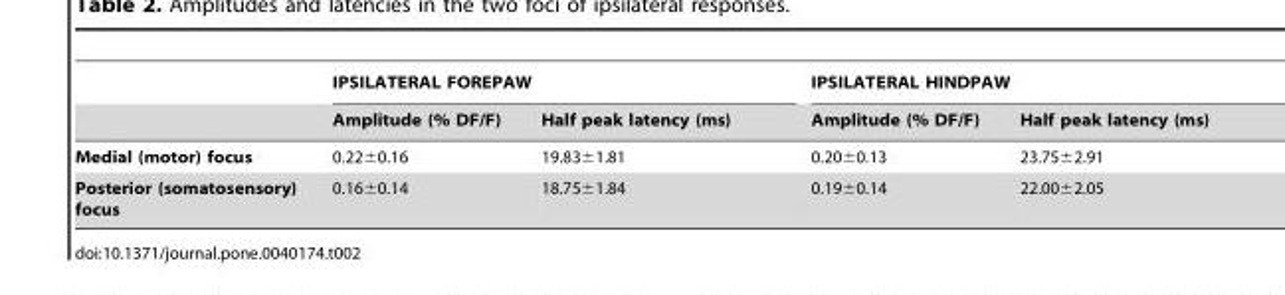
<table><thead><tr><td rowspan="2"></td><td colspan="2">IPSILATERAL FOREPAW</td><td colspan="2">IPSILATERAL HINDPAW</td></tr><tr><td>Amplitude (% DF/F)</td><td>Half peak latency (ms)</td><td>Amplitude (% DF/F)</td><td>Half peak latency (ms)</td></tr></thead><tbody><tr><td>Medial (motor) focus</td><td>0.22±0.16</td><td>19.83±1.81</td><td>0.20±0.13</td><td>23.75±2.91</td></tr><tr><td>Posterior (somatosensory) focus</td><td>0.16±0.14</td><td>18.75±1.84</td><td>0.19±0.14</td><td>22.00±2.05</td></tr></tbody></table>